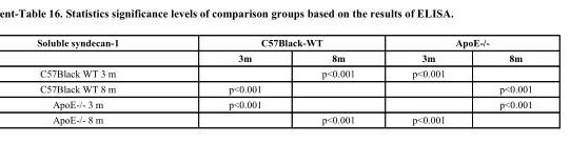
<table><thead><tr><td rowspan="2">Soluble syndecan-1</td><td colspan="2">C57Black-WT</td><td colspan="2">ApoE-/-</td></tr><tr><td>3m</td><td>8m</td><td>3m</td><td>8m</td></tr></thead><tbody><tr><td>C57Black WT 3 m</td><td></td><td>p&lt;0.001</td><td>p&lt;0.001</td><td></td></tr><tr><td>C57Black WT 8 m</td><td>p&lt;0.001</td><td></td><td></td><td>p&lt;0.001</td></tr><tr><td>АроЕ-/- 3 m</td><td>p&lt;0.001</td><td></td><td></td><td>p&lt;0.001</td></tr><tr><td>АроЕ-/- 8 m</td><td></td><td>p&lt;0.001</td><td>p&lt;0.001</td><td></td></tr></tbody></table>